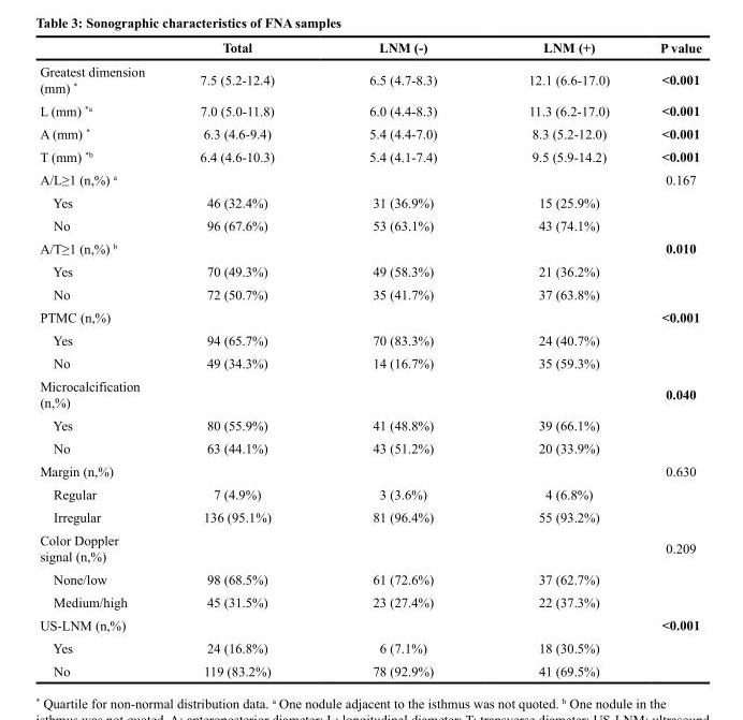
<table><thead><tr><td></td><td>Total</td><td>LNM (-)</td><td>LNM (+)</td><td>P value</td></tr></thead><tbody><tr><td>Greatest dimension (mm) *</td><td>7.5 (5.2-12.4)</td><td>6.5 (4.7-8.3)</td><td>12.1 (6.6-17.0)</td><td>&lt;0.001</td></tr><tr><td>L (mm) <sup>*a</sup></td><td>7.0 (5.0-11.8)</td><td>6.0 (4.4-8.3)</td><td>11.3 (6.2-17.0)</td><td>&lt;0.001</td></tr><tr><td>A (mm) *</td><td>6.3 (4.6-9.4)</td><td>5.4 (4.4-7.0)</td><td>8.3 (5.2-12.0)</td><td>&lt;0.001</td></tr><tr><td>T (mm) <sup>*b</sup></td><td>6.4 (4.6-10.3)</td><td>5.4 (4.1-7.4)</td><td>9.5 (5.9-14.2)</td><td>&lt;0.001</td></tr><tr><td>A/L≥1 (n,%) <sup>a</sup></td><td></td><td></td><td></td><td>0.167</td></tr><tr><td>Yes</td><td>46 (32.4%)</td><td>31 (36.9%)</td><td>15 (25.9%)</td><td></td></tr><tr><td>No</td><td>96 (67.6%)</td><td>53 (63.1%)</td><td>43 (74.1%)</td><td></td></tr><tr><td>A/T≥1 (n,%) <sup>b</sup></td><td></td><td></td><td></td><td>0.010</td></tr><tr><td>Yes</td><td>70 (49.3%)</td><td>49 (58.3%)</td><td>21 (36.2%)</td><td></td></tr><tr><td>No</td><td>72 (50.7%)</td><td>35 (41.7%)</td><td>37 (63.8%)</td><td></td></tr><tr><td>PTMC (n,%)</td><td></td><td></td><td></td><td>&lt;0.001</td></tr><tr><td>Yes</td><td>94 (65.7%)</td><td>70 (83.3%)</td><td>24 (40.7%)</td><td></td></tr><tr><td>No</td><td>49 (34.3%)</td><td>14 (16.7%)</td><td>35 (59.3%)</td><td></td></tr><tr><td>Microcalcification (n,%)</td><td></td><td></td><td></td><td>0.040</td></tr><tr><td>Yes</td><td>80 (55.9%)</td><td>41 (48.8%)</td><td>39 (66.1%)</td><td></td></tr><tr><td>No</td><td>63 (44.1%)</td><td>43 (51.2%)</td><td>20 (33.9%)</td><td></td></tr><tr><td>Margin (n,%)</td><td></td><td></td><td></td><td>0.630</td></tr><tr><td>Regular</td><td>7 (4.9%)</td><td>3 (3.6%)</td><td>4 (6.8%)</td><td></td></tr><tr><td>Irregular</td><td>136 (95.1%)</td><td>81 (96.4%)</td><td>55 (93.2%)</td><td></td></tr><tr><td>Color Doppler signal (n,%)</td><td></td><td></td><td></td><td>0.209</td></tr><tr><td>None/low</td><td>98 (68.5%)</td><td>61 (72.6%)</td><td>37 (62.7%)</td><td></td></tr><tr><td>Medium/high</td><td>45 (31.5%)</td><td>23 (27.4%)</td><td>22 (37.3%)</td><td></td></tr><tr><td>US-LNM (n,%)</td><td></td><td></td><td></td><td>&lt;0.001</td></tr><tr><td>Yes</td><td>24 (16.8%)</td><td>6 (7.1%)</td><td>18 (30.5%)</td><td></td></tr><tr><td>No</td><td>119 (83.2%)</td><td>78 (92.9%)</td><td>41 (69.5%)</td><td></td></tr></tbody></table>